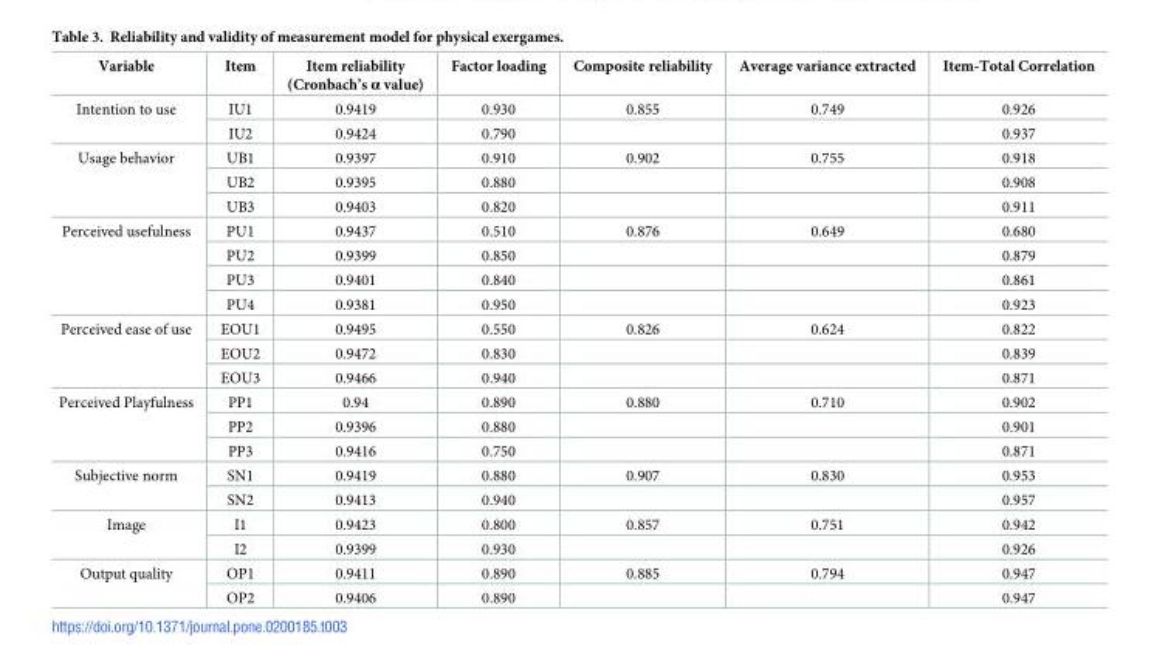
<table><thead><tr><td>Variable</td><td>Item</td><td>Item reliability (Cronbach’s α value)</td><td>Factor loading</td><td>Composite reliability</td><td>Average variance extracted</td><td>Item-Total Correlation</td></tr></thead><tbody><tr><td rowspan="2">Intention to use</td><td>IU1</td><td>0.9419</td><td>0.930</td><td>0.855</td><td>0.749</td><td>0.926</td></tr><tr><td>IU2</td><td>0.9424</td><td>0.790</td><td></td><td></td><td>0.937</td></tr><tr><td rowspan="3">Usage behavior</td><td>UB1</td><td>0.9397</td><td>0.910</td><td>0.902</td><td>0.755</td><td>0.918</td></tr><tr><td>UB2</td><td>0.9395</td><td>0.880</td><td></td><td></td><td>0.908</td></tr><tr><td>UB3</td><td>0.9403</td><td>0.820</td><td></td><td></td><td>0.911</td></tr><tr><td rowspan="4">Perceived usefulness</td><td>PU1</td><td>0.9437</td><td>0.510</td><td>0.876</td><td>0.649</td><td>0.680</td></tr><tr><td>PU2</td><td>0.9399</td><td>0.850</td><td></td><td></td><td>0.879</td></tr><tr><td>PU3</td><td>0.9401</td><td>0.840</td><td></td><td></td><td>0.861</td></tr><tr><td>PU4</td><td>0.9381</td><td>0.950</td><td></td><td></td><td>0.923</td></tr><tr><td rowspan="3">Perceived ease of use</td><td>EOU1</td><td>0.9495</td><td>0.550</td><td>0.826</td><td>0.624</td><td>0.822</td></tr><tr><td>EOU2</td><td>0.9472</td><td>0.830</td><td></td><td></td><td>0.839</td></tr><tr><td>EOU3</td><td>0.9466</td><td>0.940</td><td></td><td></td><td>0.871</td></tr><tr><td rowspan="3">Perceived Playfulness</td><td>PP1</td><td>0.94</td><td>0.890</td><td>0.880</td><td>0.710</td><td>0.902</td></tr><tr><td>PP2</td><td>0.9396</td><td>0.880</td><td></td><td></td><td>0.901</td></tr><tr><td>PP3</td><td>0.9416</td><td>0.750</td><td></td><td></td><td>0.871</td></tr><tr><td rowspan="2">Subjective norm</td><td>SN1</td><td>0.9419</td><td>0.880</td><td>0.907</td><td>0.830</td><td>0.953</td></tr><tr><td>SN2</td><td>0.9413</td><td>0.940</td><td></td><td></td><td>0.957</td></tr><tr><td rowspan="2">Image</td><td>I1</td><td>0.9423</td><td>0.800</td><td>0.857</td><td>0.751</td><td>0.942</td></tr><tr><td>I2</td><td>0.9399</td><td>0.930</td><td></td><td></td><td>0.926</td></tr><tr><td rowspan="2">Output quality</td><td>OP1</td><td>0.9411</td><td>0.890</td><td>0.885</td><td>0.794</td><td>0.947</td></tr><tr><td>OP2</td><td>0.9406</td><td>0.890</td><td></td><td></td><td>0.947</td></tr></tbody></table>